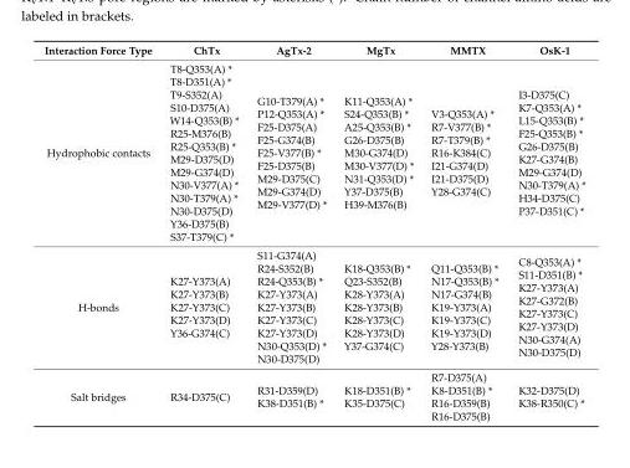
<table><thead><tr><td>Interaction Force Type</td><td>ChTx</td><td>AgTx-2</td><td>MgTx</td><td>MMTX</td><td>OsK-1</td></tr></thead><tbody><tr><td>Hydrophobic contacts</td><td>T8-Q353(A) * T8-D351(A) * T9-S352(A) S10-D375(A) W14-Q353(B) * R25-M376(B) R25-Q353(B) * M29-D375(D) M29-G374(D) N30-V377(A) * N30-T379(A) * N30-D375(D) Y36-D375(B) S37-T379(C) *</td><td>2 G10-T379(A) * P12-Q353(A) * F25-D375(A) F25-G374(B) F25-V377(B) * F25-D375(B) M29-D375(C) M29-G374(D) M29-V377(D) *</td><td>K11-Q353(A) * S24-Q353(B) * A25-Q353(B) * G26-D375(B) M30-G374(D) M30-V377(D) * N31-Q353(D) * Y37-D375(B) H39-M376(B)</td><td>V3-Q353(A) * R7-V377(B) * R7-T379(B) * R16-K384(C) I21-G374(D) I21-D375(D) Y28-G374(C)</td><td>I3-D375(C) K7-Q353(A) * L15-Q353(B) * F25-Q353(B) * G26-D375(B) K27-G374(B) M29-G374(D) N30-T379(A) * H34-D375(C) P37-D351(C) *</td></tr><tr><td>H-bonds</td><td>K27-Y373(A) K27-Y373(B) K27-Y373(C) K27-Y373(D) Y36-G374(C)</td><td>S11-G374(A) R24-S352(B) R24-Q353(B) * K27-Y373(A) K27-Y373(B) K27-Y373(C) K27-Y373(D) N30-Q353(D) * N30-D375(D)</td><td>K18-Q353(B) * Q23-S352(B) K28-Y373(A) K28-Y373(B) K28-Y373(C) K28-Y373(D) Y37-G374(C)</td><td>Q11-Q353(B) * N17-Q353(B) * N17-G374(B) K19-Y373(A) K19-Y373(C) K19-Y373(D) Y28-Y373(B)</td><td>C8-Q353(A) * S11-D351(B) * K27-Y373(A) K27-G372(B) K27-Y373(C) K27-Y373(D) N30-G374(A) N30-D375(D)</td></tr><tr><td>Salt bridges</td><td>R34-D375(C)</td><td>R31-D359(D) K38-D351(B) *</td><td>K18-D351(B) * K35-D375(C)</td><td>R7-D375(A) K8-D351(B) * R16-D359(B) R16-D375(B)</td><td>K32-D375(D) K38-R350(C) *</td></tr></tbody></table>